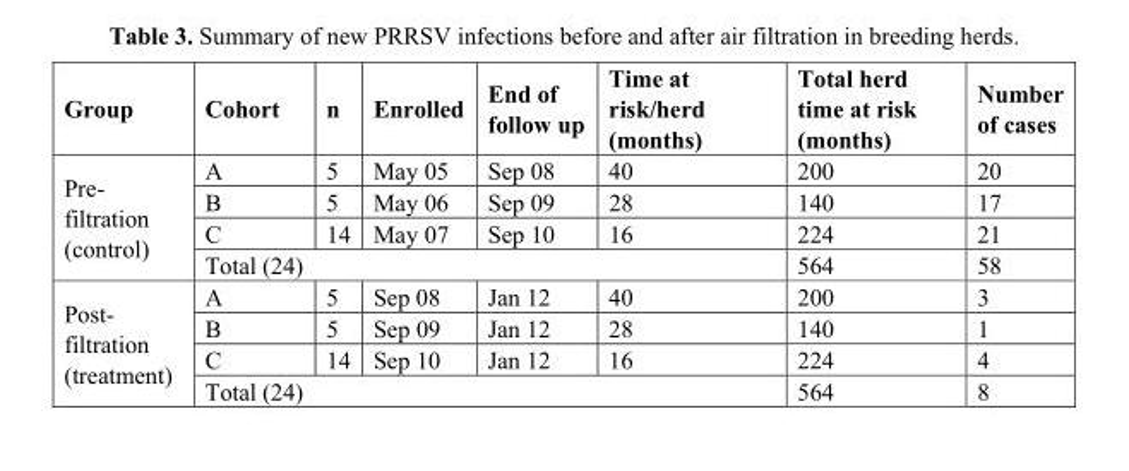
<table><thead><tr><td>Group</td><td>Cohort</td><td>n</td><td>Enrolled</td><td>End of follow up</td><td>Time at risk/herd (months)</td><td>Total herd time at risk (months)</td><td>Number of cases</td></tr></thead><tbody><tr><td rowspan="4">Pre- filtration (control)</td><td>A</td><td>5</td><td>May 05</td><td>Sep 08</td><td>40</td><td>200</td><td>20</td></tr><tr><td>B</td><td>5</td><td>May 06</td><td>Sep 09</td><td>28</td><td>140</td><td>17</td></tr><tr><td>C</td><td>14</td><td>May 07</td><td>Sep 10</td><td>16</td><td>224</td><td>21</td></tr><tr><td colspan="5">Total (24)</td><td>564</td><td>58</td></tr><tr><td rowspan="4">Post- filtration (treatment)</td><td>A</td><td>5</td><td>Sep 08</td><td>Jan 12</td><td>40</td><td>200</td><td>3</td></tr><tr><td>B</td><td>5</td><td>Sep 09</td><td>Jan 12</td><td>28</td><td>140</td><td>1</td></tr><tr><td>C</td><td>14</td><td>Sep 10</td><td>Jan 12</td><td>16</td><td>224</td><td>4</td></tr><tr><td colspan="5">Total (24)</td><td>564</td><td>8</td></tr></tbody></table>